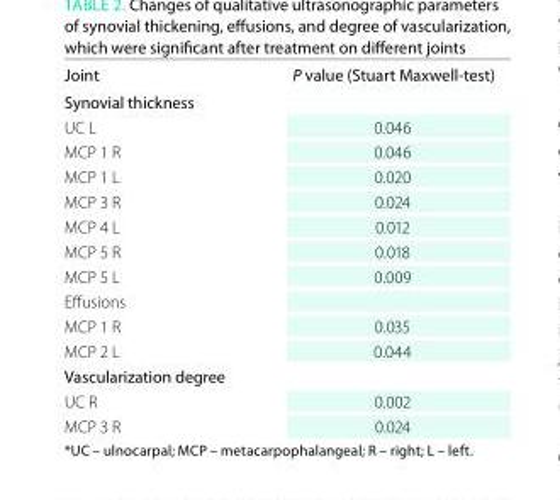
<table><thead><tr><td>Joint</td><td>P value (stuart Maxwell-test)</td></tr></thead><tbody><tr><td colspan="2">synovial thickness</td></tr><tr><td>UC L</td><td>0.046</td></tr><tr><td>MCP 1 R</td><td>0.046</td></tr><tr><td>MCP 1 L</td><td>0.020</td></tr><tr><td>MCP 3 R</td><td>0.024</td></tr><tr><td>MCP 4 L</td><td>0.012</td></tr><tr><td>MCP 5 R</td><td>0.018</td></tr><tr><td>MCP 5 L</td><td>0.009</td></tr><tr><td colspan="2">Effusions</td></tr><tr><td>MCP 1 R</td><td>0.035</td></tr><tr><td>MCP 2 L</td><td>0.044</td></tr><tr><td colspan="2">Vascularization degree</td></tr><tr><td>UC R</td><td>0.002</td></tr><tr><td>MCP 3 R</td><td>0.024</td></tr></tbody></table>